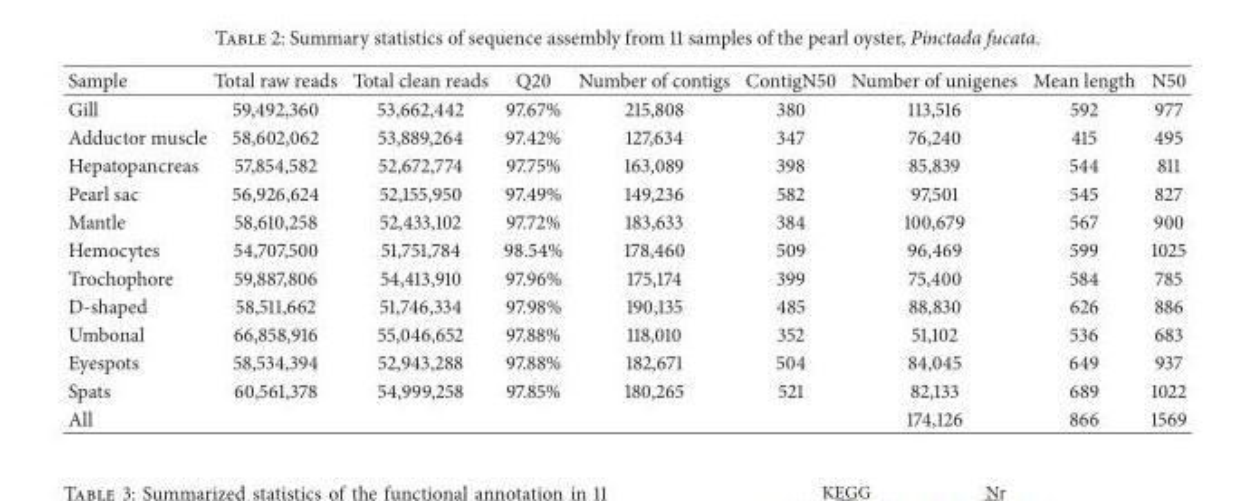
<table><thead><tr><td>Sample</td><td>Total raw reads</td><td>Total clean reads</td><td>Q20</td><td>Number of contigs</td><td>ContigN50</td><td>Number of unigenes</td><td>Mean length</td><td>N50</td></tr></thead><tbody><tr><td>Gill</td><td>59,492,360</td><td>53,662,442</td><td>97.67%</td><td>215,808</td><td>380</td><td>113,516</td><td>592</td><td>977</td></tr><tr><td>Adductor muscle</td><td>58,602,062</td><td>53,889,264</td><td>97.42%</td><td>127,634</td><td>347</td><td>76,240</td><td>415</td><td>495</td></tr><tr><td>Hepatopancreas</td><td>57,854,582</td><td>52,672,774</td><td>97.75%</td><td>163,089</td><td>398</td><td>85,839</td><td>544</td><td>811</td></tr><tr><td>Pearl sac</td><td>56,926,624</td><td>52,155,950</td><td>97.49%</td><td>149,236</td><td>582</td><td>97,501</td><td>545</td><td>827</td></tr><tr><td>Mantle</td><td>58,610,258</td><td>52,433,102</td><td>97.72%</td><td>183,633</td><td>384</td><td>100,679</td><td>567</td><td>900</td></tr><tr><td>Hemocytes</td><td>54,707,500</td><td>51,751,784</td><td>98.54%</td><td>178,460</td><td>509</td><td>96,469</td><td>599</td><td>1025</td></tr><tr><td>Trochophore</td><td>59,887,806</td><td>54,413,910</td><td>97.96%</td><td>175,174</td><td>399</td><td>75,400</td><td>584</td><td>785</td></tr><tr><td>D-shaped</td><td>58,511,662</td><td>51,746,334</td><td>97.98%</td><td>190,135</td><td>485</td><td>88,830</td><td>626</td><td>886</td></tr><tr><td>Umbonal</td><td>66,858,916</td><td>55,046,652</td><td>97.88%</td><td>118,010</td><td>352</td><td>51,102</td><td>536</td><td>683</td></tr><tr><td>Eyespots</td><td>58,534,394</td><td>52,943,288</td><td>97.88%</td><td>182,671</td><td>504</td><td>84,045</td><td>649</td><td>937</td></tr><tr><td>Spats</td><td>60,561,378</td><td>54,999,258</td><td>97.85%</td><td>180,265</td><td>521</td><td>82,133</td><td>689</td><td>1022</td></tr><tr><td>All</td><td></td><td></td><td></td><td></td><td></td><td>174,126</td><td>866</td><td>1569</td></tr></tbody></table>